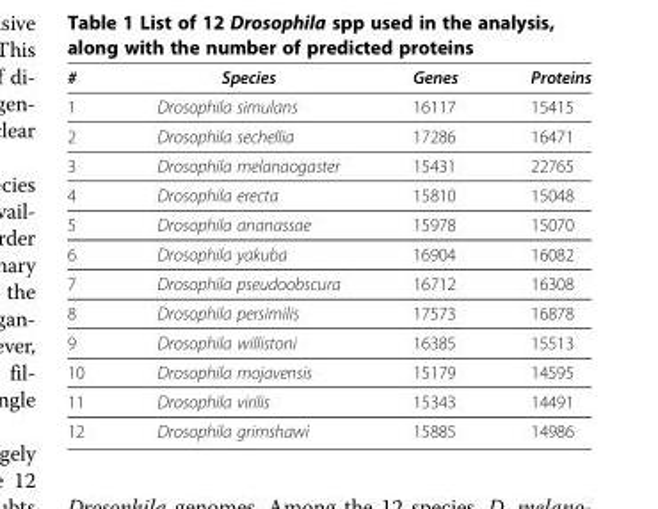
<table><thead><tr><td>#</td><td>Species</td><td>Genes</td><td>Proteins</td></tr></thead><tbody><tr><td>1</td><td>Drosophila simulans</td><td>16117</td><td>15415</td></tr><tr><td>2</td><td>Drosophila sechellia</td><td>17286</td><td>16471</td></tr><tr><td>3</td><td>Drosophila melanaogaster</td><td>15431</td><td>22765</td></tr><tr><td>4</td><td>Drosophila erecta</td><td>15810</td><td>15048</td></tr><tr><td>5</td><td>Drosophila ananassae</td><td>15978</td><td>15070</td></tr><tr><td>6</td><td>Drosophila yakuba</td><td>16904</td><td>16082</td></tr><tr><td>7</td><td>Drosophila pseudoobscura</td><td>16712</td><td>16308</td></tr><tr><td>8</td><td>Drosophila persimilis</td><td>17573</td><td>16878</td></tr><tr><td>9</td><td>Drosophila willistoni</td><td>16385</td><td>15513</td></tr><tr><td>10</td><td>Drosophila mojavensis</td><td>15179</td><td>14595</td></tr><tr><td>11</td><td>Drosophila virilis</td><td>15343</td><td>14491</td></tr><tr><td>12</td><td>Drosophila grimshawi</td><td>15885</td><td>14986</td></tr></tbody></table>